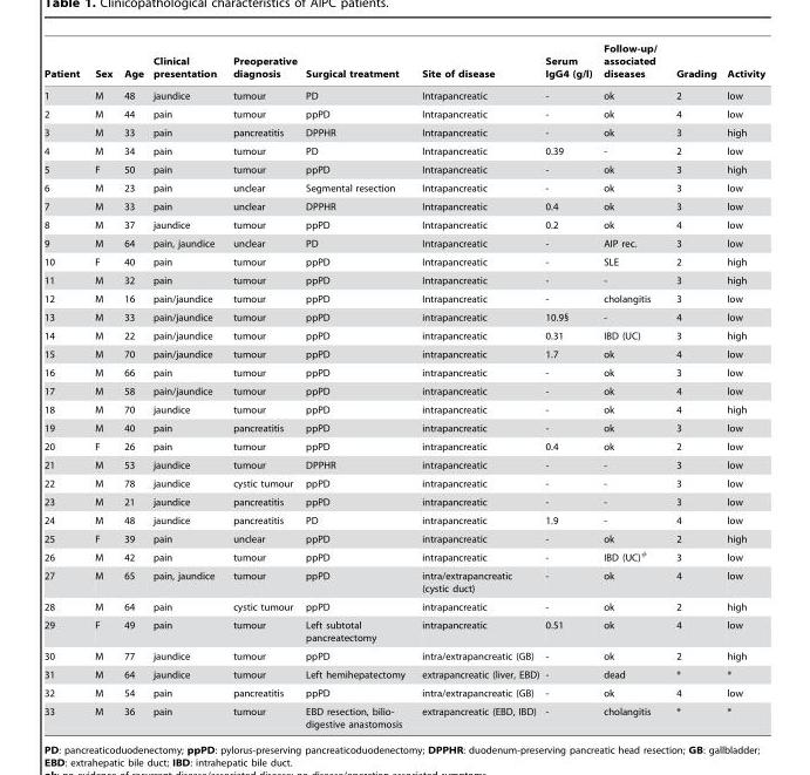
<table><thead><tr><td>Patient</td><td>Sex</td><td>Age</td><td>Clinical presentation</td><td>Preoperative diagnosis</td><td>Surgical treatment</td><td>Site of disease</td><td>Serum IgG4 (g/l)</td><td>Follow-up/ associated diseases</td><td>Grading</td><td>Activity</td></tr></thead><tbody><tr><td>1</td><td>M</td><td>48</td><td>jaundice</td><td>tumour</td><td>PD</td><td>Intrapancreatic</td><td>-</td><td>ok</td><td>2</td><td>low</td></tr><tr><td>2</td><td>M</td><td>44</td><td>pain</td><td>tumour</td><td>ppPD</td><td>Intrapancreatic</td><td>-</td><td>ok</td><td>4</td><td>low</td></tr><tr><td>3</td><td>M</td><td>33</td><td>pain</td><td>pancreatitis</td><td>DPPHR</td><td>Intrapancreatic</td><td>-</td><td>ok</td><td>3</td><td>high</td></tr><tr><td>4</td><td>M</td><td>34</td><td>pain</td><td>tumour</td><td>PD</td><td>Intrapancreatic</td><td>0.39</td><td>-</td><td>2</td><td>low</td></tr><tr><td>5</td><td>F</td><td>50</td><td>pain</td><td>tumour</td><td>ppPD</td><td>Intrapancreatic</td><td>-</td><td>ok</td><td>3</td><td>high</td></tr><tr><td>6</td><td>M</td><td>23</td><td>pain</td><td>unclear</td><td>Segmental resection</td><td>Intrapancreatic</td><td>-</td><td>ok</td><td>3</td><td>low</td></tr><tr><td>7</td><td>M</td><td>33</td><td>pain</td><td>unclear</td><td>DPPHR</td><td>Intrapancreatic</td><td>0.4</td><td>ok</td><td>3</td><td>low</td></tr><tr><td>8</td><td>M</td><td>37</td><td>jaundice</td><td>tumour</td><td>ppPD</td><td>Intrapancreatic</td><td>0.2</td><td>ok</td><td>4</td><td>low</td></tr><tr><td>9</td><td>M</td><td>64</td><td>pain, jaundice</td><td>unclear</td><td>PD</td><td>Intrapancreatic</td><td>-</td><td>AIP rec.</td><td>3</td><td>low</td></tr><tr><td>10</td><td>F</td><td>40</td><td>pain</td><td>tumour</td><td>ppPD</td><td>Intrapancreatic</td><td>-</td><td>SLE</td><td>2</td><td>high</td></tr><tr><td>11</td><td>M</td><td>32</td><td>pain</td><td>tumour</td><td>ppPD</td><td>Intrapancreatic</td><td>-</td><td>-</td><td>3</td><td>high</td></tr><tr><td>12</td><td>M</td><td>16</td><td>pain/jaundice</td><td>tumour</td><td>ppPD</td><td>Intrapancreatic</td><td>-</td><td>cholangitis</td><td>3</td><td>low</td></tr><tr><td>13</td><td>M</td><td>33</td><td>pain/jaundice</td><td>tumour</td><td>ppPD</td><td>intrapancreatic</td><td>10.9§</td><td>-</td><td>4</td><td>low</td></tr><tr><td>14</td><td>M</td><td>22</td><td>pain/jaundice</td><td>tumour</td><td>ppPD</td><td>intrapancreatic</td><td>0.31</td><td>IBD (UC)</td><td>3</td><td>high</td></tr><tr><td>15</td><td>M</td><td>70</td><td>pain/jaundice</td><td>tumour</td><td>ppPD</td><td>intrapancreatic</td><td>1.7</td><td>ok</td><td>4</td><td>low</td></tr><tr><td>16</td><td>M</td><td>66</td><td>pain</td><td>tumour</td><td>ppPD</td><td>intrapancreatic</td><td>-</td><td>ok</td><td>3</td><td>low</td></tr><tr><td>17</td><td>M</td><td>58</td><td>pain/jaundice</td><td>tumour</td><td>ppPD</td><td>intrapancreatic</td><td>-</td><td>ok</td><td>4</td><td>low</td></tr><tr><td>18</td><td>M</td><td>70</td><td>jaundice</td><td>tumour</td><td>ppPD</td><td>intrapancreatic</td><td>-</td><td>ok</td><td>4</td><td>high</td></tr><tr><td>19</td><td>M</td><td>40</td><td>pain</td><td>pancreatitis</td><td>ppPD</td><td>intrapancreatic</td><td>-</td><td>ok</td><td>3</td><td>low</td></tr><tr><td>20</td><td>F</td><td>26</td><td>pain</td><td>tumour</td><td>ppPD</td><td>intrapancreatic</td><td>0.4</td><td>ok</td><td>2</td><td>low</td></tr><tr><td>21</td><td>M</td><td>53</td><td>jaundice</td><td>tumour</td><td>DPPHR</td><td>intrapancreatic</td><td>-</td><td>-</td><td>3</td><td>low</td></tr><tr><td>22</td><td>M</td><td>78</td><td>jaundice</td><td>cystic tumour</td><td>ppPD</td><td>intrapancreatic</td><td>-</td><td>-</td><td>3</td><td>low</td></tr><tr><td>23</td><td>M</td><td>21</td><td>jaundice</td><td>pancreatitis</td><td>ppPD</td><td>intrapancreatic</td><td>-</td><td>-</td><td>3</td><td>low</td></tr><tr><td>24</td><td>M</td><td>48</td><td>jaundice</td><td>pancreatitis</td><td>PD</td><td>intrapancreatic</td><td>1.9</td><td>-</td><td>4</td><td>low</td></tr><tr><td>25</td><td>F</td><td>39</td><td>pain</td><td>unclear</td><td>ppPD</td><td>intrapancreatic</td><td>-</td><td>ok</td><td>2</td><td>high</td></tr><tr><td>26</td><td>M</td><td>42</td><td>pain</td><td>tumour</td><td>ppPD</td><td>intrapancreatic</td><td>-</td><td>IBD (UC)#</td><td>3</td><td>low</td></tr><tr><td>27</td><td>M</td><td>65</td><td>pain, jaundice</td><td>tumour</td><td>ppPD</td><td>intra/extrapancreatic (cystic duct)</td><td>-</td><td>ok</td><td>4</td><td>low</td></tr><tr><td>28</td><td>M</td><td>64</td><td>pain</td><td>cystic tumour</td><td>ppPD</td><td>intrapancreatic</td><td>-</td><td>ok</td><td>2</td><td>high</td></tr><tr><td>29</td><td>F</td><td>49</td><td>pain</td><td>tumour</td><td>Left subtotal pancreatectomy</td><td>intrapancreatic</td><td>0.51</td><td>ok</td><td>4</td><td>low</td></tr><tr><td>30</td><td>M</td><td>77</td><td>jaundice</td><td>tumour</td><td>ppPD</td><td>intra/extrapancreatic (GB)</td><td>-</td><td>ok</td><td>2</td><td>high</td></tr><tr><td>31</td><td>M</td><td>64</td><td>jaundice</td><td>tumour</td><td>Left hemihepatectomy</td><td>extrapancreatic (liver, EBD)</td><td>-</td><td>dead</td><td>*</td><td>*</td></tr><tr><td>32</td><td>M</td><td>54</td><td>pain</td><td>pancreatitis</td><td>ppPD</td><td>intra/extrapancreatic (GB)</td><td>-</td><td>ok</td><td>4</td><td>low</td></tr><tr><td>33</td><td>M</td><td>36</td><td>pain</td><td>tumour</td><td>EBD resection, bilio- digestive anastomosis</td><td>extrapancreatic (EBD, IBD)</td><td>-</td><td>cholangitis</td><td>*</td><td>*</td></tr></tbody></table>